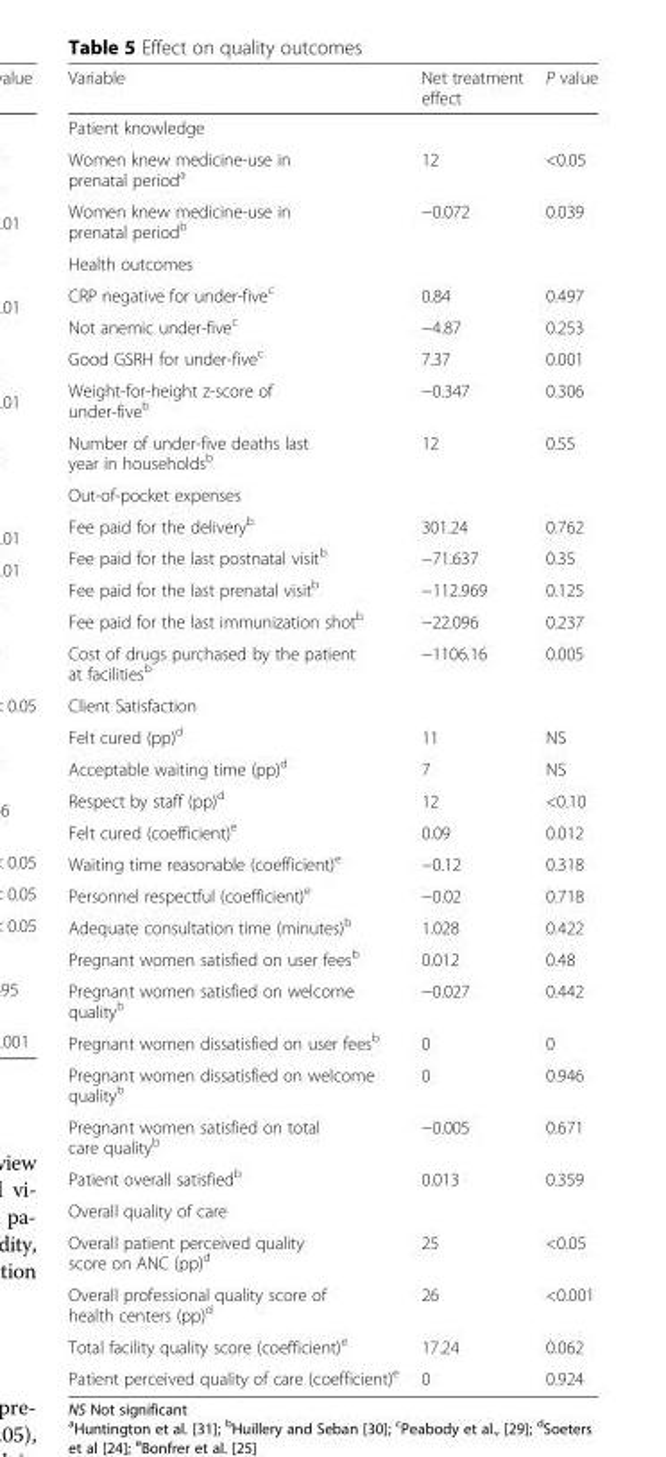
<table><thead><tr><td>Variable</td><td>Net treatment effect</td><td>P value</td></tr></thead><tbody><tr><td colspan="3">Patient knowledge</td></tr><tr><td>Women knew medicine-use in prenatal period<sup>a</sup></td><td>12</td><td>&lt;0.05</td></tr><tr><td>Women knew medicine-use in prenatal period<sup>b</sup></td><td>−0.072</td><td>0.039</td></tr><tr><td colspan="3">Health outcomes</td></tr><tr><td>CRP negative for under-five<sup>c</sup></td><td>0.84</td><td>0.497</td></tr><tr><td>Not anemic under-five<sup>c</sup></td><td>−4.87</td><td>0.253</td></tr><tr><td>Good GSRH for under-five<sup>c</sup></td><td>7.37</td><td>0.001</td></tr><tr><td>Weight-for-height z-score of under-five<sup>b</sup></td><td>−0.347</td><td>0.306</td></tr><tr><td>Number of under-five deaths last year in households<sup>b</sup></td><td>12</td><td>0.55</td></tr><tr><td colspan="3">Out-of-pocket expenses</td></tr><tr><td>Fee paid for the delivery<sup>b</sup></td><td>301.24</td><td>0.762</td></tr><tr><td>Fee paid for the last postnatal visit<sup>b</sup></td><td>−71.637</td><td>0.35</td></tr><tr><td>Fee paid for the last prenatal visit<sup>b</sup></td><td>−112.969</td><td>0.125</td></tr><tr><td>Fee paid for the last immunization shot<sup>b</sup></td><td>−22.096</td><td>0.237</td></tr><tr><td>Cost of drugs purchased by the patient at facilities<sup>b</sup></td><td>−1106.16</td><td>0.005</td></tr><tr><td colspan="3">Client Satisfaction</td></tr><tr><td>Felt cured (pp)<sup>d</sup></td><td>11</td><td>NS</td></tr><tr><td>Acceptable waiting time (pp)<sup>d</sup></td><td>7</td><td>NS</td></tr><tr><td>Respect by staff (pp)<sup>d</sup></td><td>12</td><td>&lt;0.10</td></tr><tr><td>Felt cured (coefficient)<sup>e</sup></td><td>0.09</td><td>0.012</td></tr><tr><td>Waiting time reasonable (coefficient)<sup>e</sup></td><td>−0.12</td><td>0.318</td></tr><tr><td>Personnel respectful (coefficient)<sup>e</sup></td><td>−0.02</td><td>0.718</td></tr><tr><td>Adequate consultation time (minutes)<sup>b</sup></td><td>1.028</td><td>0.422</td></tr><tr><td>Pregnant women satisfied on user fees<sup>b</sup></td><td>0.012</td><td>0.48</td></tr><tr><td>Pregnant women satisfied on welcome quality<sup>b</sup></td><td>−0.027</td><td>0.442</td></tr><tr><td>Pregnant women dissatisfied on user fees<sup>b</sup></td><td>0</td><td>0</td></tr><tr><td>Pregnant women dissatisfied on welcome quality<sup>b</sup></td><td>0</td><td>0.946</td></tr><tr><td>Pregnant women satisfied on total care quality<sup>b</sup></td><td>−0.005</td><td>0.671</td></tr><tr><td>Patient overall satisfied<sup>b</sup></td><td>0.013</td><td>0.359</td></tr><tr><td colspan="3">Overall quality of care</td></tr><tr><td>Overall patient perceived quality score on ANC (pp)<sup>d</sup></td><td>25</td><td>&lt;0.05</td></tr><tr><td>Overall professional quality score of health centers (pp)<sup>d</sup></td><td>26</td><td>&lt;0.001</td></tr><tr><td>Total facility quality score (coefficient)<sup>e</sup></td><td>17.24</td><td>0.062</td></tr><tr><td>Patient perceived quality of care (coefficient)<sup>e</sup></td><td>0</td><td>0.924</td></tr></tbody></table>